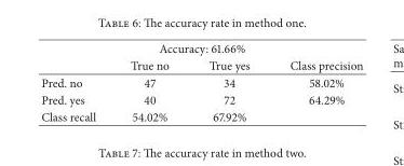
<table><thead><tr><td colspan="4">Accuracy: 61.66%</td></tr><tr><td></td><td>True no</td><td>True yes</td><td>Class precision</td></tr></thead><tbody><tr><td>Pred. no</td><td>47</td><td>34</td><td>58.02%</td></tr><tr><td>Pred. yes</td><td>40</td><td>72</td><td>64.29%</td></tr><tr><td>Class recall</td><td>54.02%</td><td>67.92%</td><td></td></tr></tbody></table>